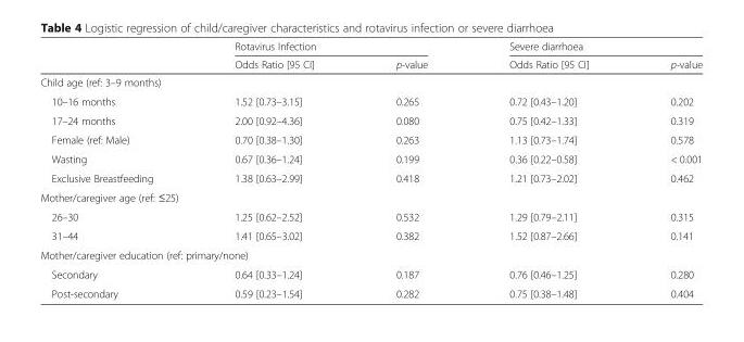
<table><thead><tr><td rowspan="2"></td><td colspan="2">Rotavirus Infection</td><td colspan="2">Severe diarrhoea</td></tr><tr><td>Odds Ratio [95 CI]</td><td>p-value</td><td>Odds Ratio [95 CI]</td><td>p-value</td></tr></thead><tbody><tr><td colspan="5">Child age (ref: 3–9 months)</td></tr><tr><td>10–16 months</td><td>1.52 [0.73–3.15]</td><td>0.265</td><td>0.72 [0.43–1.20]</td><td>0.202</td></tr><tr><td>17–24 months</td><td>2.00 [0.92–4.36]</td><td>0.080</td><td>0.75 [0.42–1.33]</td><td>0.319</td></tr><tr><td>Female (ref: Male)</td><td>0.70 [0.38–1.30]</td><td>0.263</td><td>1.13 [0.73–1.74]</td><td>0.578</td></tr><tr><td>Wasting</td><td>0.67 [0.36–1.24]</td><td>0.199</td><td>0.36 [0.22–0.58]</td><td>&lt; 0.001</td></tr><tr><td>Exclusive Breastfeeding</td><td>1.38 [0.63–2.99]</td><td>0.418</td><td>1.21 [0.73–2.02]</td><td>0.462</td></tr><tr><td colspan="5">Mother/caregiver age (ref: ≤25)</td></tr><tr><td>26–30</td><td>1.25 [0.62–2.52]</td><td>0.532</td><td>1.29 [0.79–2.11]</td><td>0.315</td></tr><tr><td>31–44</td><td>1.41 [0.65–3.02]</td><td>0.382</td><td>1.52 [0.87–2.66]</td><td>0.141</td></tr><tr><td colspan="5">Mother/caregiver education (ref: primary/none)</td></tr><tr><td>Secondary</td><td>0.64 [0.33–1.24]</td><td>0.187</td><td>0.76 [0.46–1.25]</td><td>0.280</td></tr><tr><td>Post-secondary</td><td>0.59 [0.23–1.54]</td><td>0.282</td><td>0.75 [0.38–1.48]</td><td>0.404</td></tr></tbody></table>